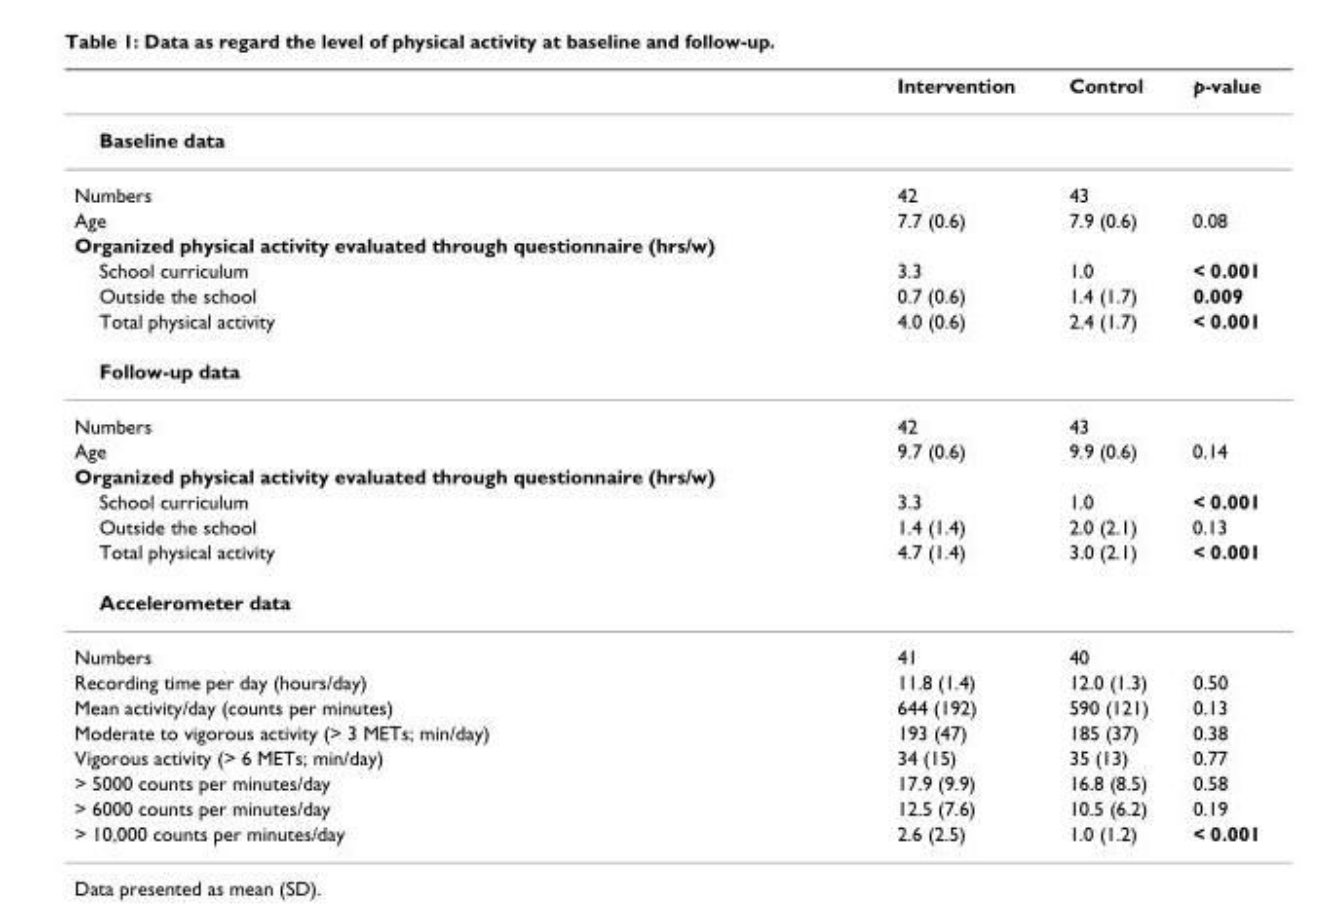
<table><thead><tr><td></td><td>Intervention</td><td>Control</td><td>p-value</td></tr></thead><tbody><tr><td colspan="4">Baseline data</td></tr><tr><td>Numbers</td><td>42</td><td>43</td><td></td></tr><tr><td>Age</td><td>7.7 (0.6)</td><td>7.9 (0.6)</td><td>0.08</td></tr><tr><td colspan="4">Organized physical activity evaluated through questionnaire (hrs/w)</td></tr><tr><td>School curriculum</td><td>3.3</td><td>1.0</td><td>&lt; 0.001</td></tr><tr><td>Outside the school</td><td>0.7 (0.6)</td><td>1.4 (1.7)</td><td>0.009</td></tr><tr><td>Total physical activity</td><td>4.0 (0.6)</td><td>2.4 (1.7)</td><td>&lt; 0.001</td></tr><tr><td colspan="4">Follow-up data</td></tr><tr><td>Numbers</td><td>42</td><td>43</td><td></td></tr><tr><td>Age</td><td>9.7 (0.6)</td><td>9.9 (0.6)</td><td>0.14</td></tr><tr><td colspan="4">Organized physical activity evaluated through questionnaire (hrs/w)</td></tr><tr><td>School curriculum</td><td>3.3</td><td>1.0</td><td>&lt; 0.001</td></tr><tr><td>Outside the school</td><td>1.4 (1.4)</td><td>2.0 (2.1)</td><td>0.13</td></tr><tr><td>Total physical activity</td><td>4.7 (1.4)</td><td>3.0 (2.1)</td><td>&lt; 0.001</td></tr><tr><td colspan="4">Accelerometer data</td></tr><tr><td>Numbers</td><td>41</td><td>40</td><td></td></tr><tr><td>Recording time per day (hours/day)</td><td>11.8 (1.4)</td><td>12.0 (1.3)</td><td>0.50</td></tr><tr><td>Mean activity/day (counts per minutes)</td><td>644 (192)</td><td>590 (121)</td><td>0.13</td></tr><tr><td>Moderate to vigorous activity (&gt; 3 METs; min/day)</td><td>193 (47)</td><td>185 (37)</td><td>0.38</td></tr><tr><td>Vigorous activity (&gt; 6 METs; min/day)</td><td>34 (15)</td><td>35 (13)</td><td>0.77</td></tr><tr><td>&gt; 5000 counts per minutes/day</td><td>17.9 (9.9)</td><td>16.8 (8.5)</td><td>0.58</td></tr><tr><td>&gt; 6000 counts per minutes/day</td><td>12.5 (7.6)</td><td>10.5 (6.2)</td><td>0.19</td></tr><tr><td>&gt; 10,000 counts per minutes/day</td><td>2.6 (2.5)</td><td>1.0 (1.2)</td><td>&lt; 0.001</td></tr></tbody></table>